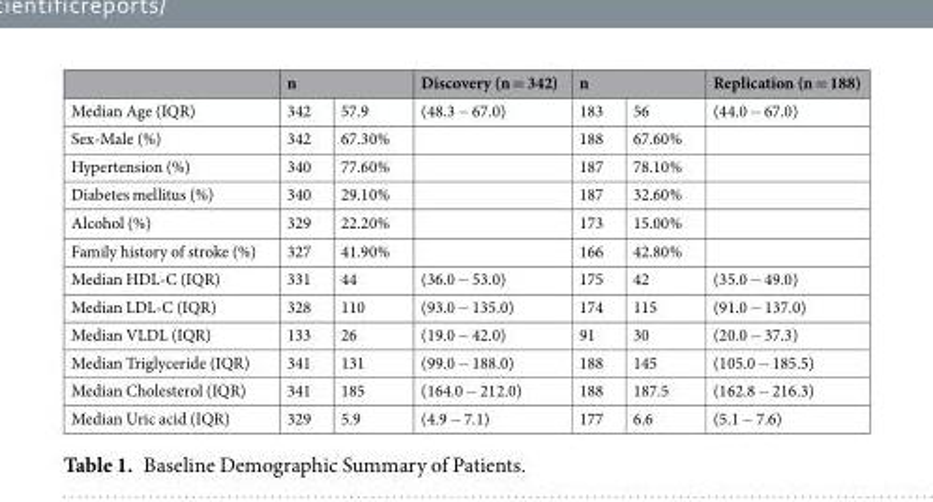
<table><thead><tr><td rowspan="2">Median Age (IQR)</td><td colspan="2">n</td><td rowspan="2">Discovery (n = 342) (48.3 − 67.0)</td><td colspan="2">n</td><td rowspan="2">Replication (n = 188) (44.0 − 67.0)</td></tr><tr><td>342</td><td>57.9</td><td>183</td><td>56</td></tr></thead><tbody><tr><td>Sex-Male (%)</td><td>342</td><td>67.30%</td><td></td><td>188</td><td>67.60%</td><td></td></tr><tr><td>Hypertension (%)</td><td>340</td><td>77.60%</td><td></td><td>187</td><td>78.10%</td><td></td></tr><tr><td>Diabetes mellitus (%)</td><td>340</td><td>29.10%</td><td></td><td>187</td><td>32.60%</td><td></td></tr><tr><td>Alcohol (%)</td><td>329</td><td>22.20%</td><td></td><td>173</td><td>15.00%</td><td></td></tr><tr><td>Family history of stroke (%)</td><td>327</td><td>41.90%</td><td></td><td>166</td><td>42.80%</td><td></td></tr><tr><td>Median HDL-C (IQR)</td><td>331</td><td>44</td><td>(36.0 − 53.0)</td><td>175</td><td>42</td><td>(35.0 − 49.0)</td></tr><tr><td>Median LDL-C (IQR)</td><td>328</td><td>110</td><td>(93.0 − 135.0)</td><td>174</td><td>115</td><td>(91.0 − 137.0)</td></tr><tr><td>Median VLDL (IQR)</td><td>133</td><td>26</td><td>(19.0 − 42.0)</td><td>91</td><td>30</td><td>(20.0 − 37.3)</td></tr><tr><td>Median Triglyceride (IQR)</td><td>341</td><td>131</td><td>(99.0 − 188.0)</td><td>188</td><td>145</td><td>(105.0 − 185.5)</td></tr><tr><td>Median Cholesterol (IQR)</td><td>341</td><td>185</td><td>(164.0 − 212.0)</td><td>188</td><td>187.5</td><td>(162.8 − 216.3)</td></tr><tr><td>Median Uric acid (IQR)</td><td>329</td><td>5.9</td><td>(4.9 − 7.1)</td><td>177</td><td>6.6</td><td>(5.1 − 7.6)</td></tr></tbody></table>